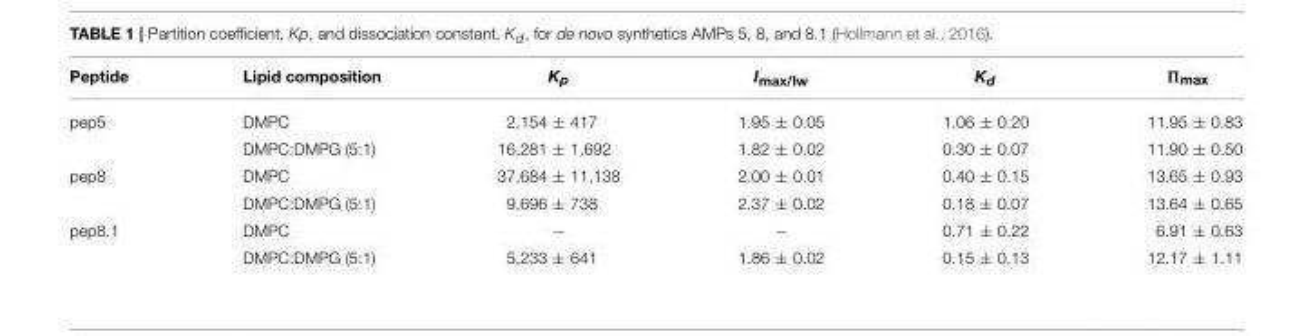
<table><thead><tr><td>Peptide</td><td>Lipid composition</td><td>Kp</td><td>I<sub>max/Iw</sub></td><td>Kd</td><td>Π<sub>max</sub></td></tr></thead><tbody><tr><td rowspan="2">pep5</td><td>DMPC</td><td>2,154 ± 417</td><td>1.95 ± 0.05</td><td>1.06 ± 0.20</td><td>11.95 ± 0.83</td></tr><tr><td>DMPC:DMPG (5:1)</td><td>16,281 ± 1,692</td><td>1.82 ± 0.02</td><td>0.30 ± 0.07</td><td>11.90 ± 0.50</td></tr><tr><td rowspan="2">pep8</td><td>DMPC</td><td>37,684 ± 11,138</td><td>2.00 ± 0.01</td><td>0.40 ± 0.15</td><td>13.65 ± 0.93</td></tr><tr><td>DMPC:DMPG (5:1)</td><td>9,696 ± 738</td><td>2.37 ± 0.02</td><td>0.18 ± 0.07</td><td>13.64 ± 0.65</td></tr><tr><td rowspan="2">pep8.1</td><td>DMPC</td><td>−</td><td>−</td><td>0.71 ± 0.22</td><td>6.91 ± 0.63</td></tr><tr><td>DMPC:DMPG (5:1)</td><td>5,233 ± 641</td><td>1.86 ± 0.02</td><td>0.15 ± 0.13</td><td>12.17 ± 1.11</td></tr></tbody></table>